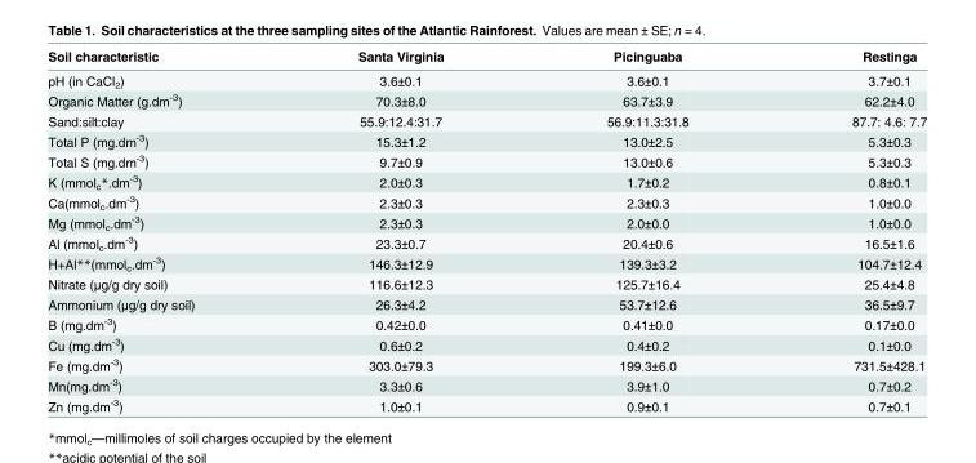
<table><thead><tr><td>Soil characteristic</td><td>Santa Virginia</td><td>Picinguaba</td><td>Restinga</td></tr></thead><tbody><tr><td>pH (in CaCl<sub>2</sub>)</td><td>3.6±0.1</td><td>3.6±0.1</td><td>3.7±0.1</td></tr><tr><td>Organic Matter (g.dm<sup>-3</sup>)</td><td>70.3±8.0</td><td>63.7±3.9</td><td>62.2±4.0</td></tr><tr><td>Sand:silt:clay</td><td>55.9:12.4:31.7</td><td>56.9:11.3:31.8</td><td>87.7: 4.6: 7.7</td></tr><tr><td>Total P (mg.dm<sup>-3</sup>)</td><td>15.3±1.2</td><td>13.0±2.5</td><td>5.3±0.3</td></tr><tr><td>Total S (mg.dm<sup>-3</sup>)</td><td>9.7±0.9</td><td>13.0±0.6</td><td>5.3±0.3</td></tr><tr><td>K (mmol<sub>c</sub>*.dm<sup>-3</sup>)</td><td>2.0±0.3</td><td>1.7±0.2</td><td>0.8±0.1</td></tr><tr><td>Ca(mmol<sub>c</sub>.dm<sup>-3</sup>)</td><td>2.3±0.3</td><td>2.3±0.3</td><td>1.0±0.0</td></tr><tr><td>Mg (mmol<sub>c</sub>.dm<sup>-3</sup>)</td><td>2.3±0.3</td><td>2.0±0.0</td><td>1.0±0.0</td></tr><tr><td>Al (mmol<sub>c</sub>.dm<sup>-3</sup>)</td><td>23.3±0.7</td><td>20.4±0.6</td><td>16.5±1.6</td></tr><tr><td>H+Al**(mmol<sub>c</sub>.dm<sup>-3</sup>)</td><td>146.3±12.9</td><td>139.3±3.2</td><td>104.7±12.4</td></tr><tr><td>Nitrate (μg/g dry soil)</td><td>116.6±12.3</td><td>125.7±16.4</td><td>25.4±4.8</td></tr><tr><td>Ammonium (μg/g dry soil)</td><td>26.3±4.2</td><td>53.7±12.6</td><td>36.5±9.7</td></tr><tr><td>B (mg.dm<sup>-3</sup>)</td><td>0.42±0.0</td><td>0.41±0.0</td><td>0.17±0.0</td></tr><tr><td>Cu (mg.dm<sup>-3</sup>)</td><td>0.6±0.2</td><td>0.4±0.2</td><td>0.1±0.0</td></tr><tr><td>Fe (mg.dm<sup>-3</sup>)</td><td>303.0±79.3</td><td>199.3±6.0</td><td>731.5±428.1</td></tr><tr><td>Mn(mg.dm<sup>-3</sup>)</td><td>3.3±0.6</td><td>3.9±1.0</td><td>0.7±0.2</td></tr><tr><td>Zn (mg.dm<sup>-3</sup>)</td><td>1.0±0.1</td><td>0.9±0.1</td><td>0.7±0.1</td></tr></tbody></table>